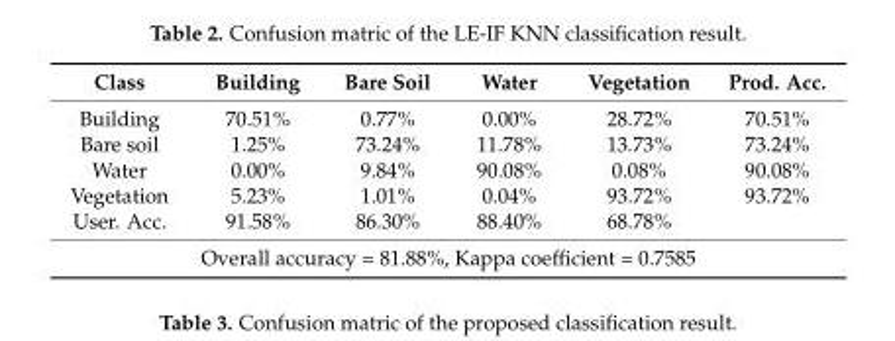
<table><thead><tr><td>Class</td><td>Building</td><td>Bare Soil</td><td>Water</td><td>Vegetation</td><td>Prod. Acc.</td></tr></thead><tbody><tr><td>Building</td><td>70.51%</td><td>0.77%</td><td>0.00%</td><td>28.72%</td><td>70.51%</td></tr><tr><td>Bare soil</td><td>1.25%</td><td>73.24%</td><td>11.78%</td><td>13.73%</td><td>73.24%</td></tr><tr><td>Water</td><td>0.00%</td><td>9.84%</td><td>90.08%</td><td>0.08%</td><td>90.08%</td></tr><tr><td>Vegetation</td><td>5.23%</td><td>1.01%</td><td>0.04%</td><td>93.72%</td><td>93.72%</td></tr><tr><td>User. Acc.</td><td>91.58%</td><td>86.30%</td><td>88.40%</td><td>68.78%</td><td></td></tr><tr><td colspan="6">Overall accuracy = 81.88%, Kappa coefficient = 0.7585</td></tr></tbody></table>